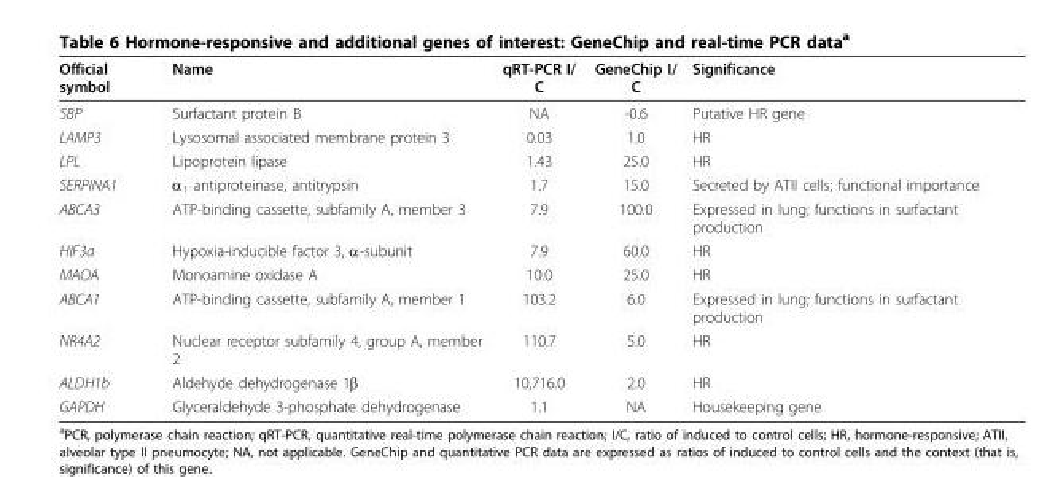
<table><thead><tr><td>Official symbol</td><td>Name</td><td>qRT-PCR I/ C</td><td>GeneChip I/ C</td><td>Significance</td></tr></thead><tbody><tr><td>SBP</td><td>Surfactant protein B</td><td>NA</td><td>-0.6</td><td>Putative HR gene</td></tr><tr><td>LAMP3</td><td>Lysosomal associated membrane protein 3</td><td>0.03</td><td>1.0</td><td>HR</td></tr><tr><td>LPL</td><td>Lipoprotein lipase</td><td>1.43</td><td>25.0</td><td>HR</td></tr><tr><td>SERPINA1</td><td>α<sub>1</sub> antiproteinase, antitrypsin</td><td>1.7</td><td>15.0</td><td>Secreted by ATII cells; functional importance</td></tr><tr><td>ABCA3</td><td>ATP-binding cassette, subfamily A, member 3</td><td>7.9</td><td>100.0</td><td>Expressed in lung; functions in surfactant production</td></tr><tr><td>HIF3a</td><td>Hypoxia-inducible factor 3, α-subunit</td><td>7.9</td><td>60.0</td><td>HR</td></tr><tr><td>MAOA</td><td>Monoamine oxidase A</td><td>10.0</td><td>25.0</td><td>HR</td></tr><tr><td>ABCA1</td><td>ATP-binding cassette, subfamily A, member 1</td><td>103.2</td><td>6.0</td><td>Expressed in lung; functions in surfactant production</td></tr><tr><td>NR4A2</td><td>Nuclear receptor subfamily 4, group A, member 2</td><td>110.7</td><td>5.0</td><td>HR</td></tr><tr><td>ALDH1b</td><td>Aldehyde dehydrogenase 1β</td><td>10,716.0</td><td>2.0</td><td>HR</td></tr><tr><td>GAPDH</td><td>Glyceraldehyde 3-phosphate dehydrogenase</td><td>1.1</td><td>NA</td><td>Housekeeping gene</td></tr></tbody></table>